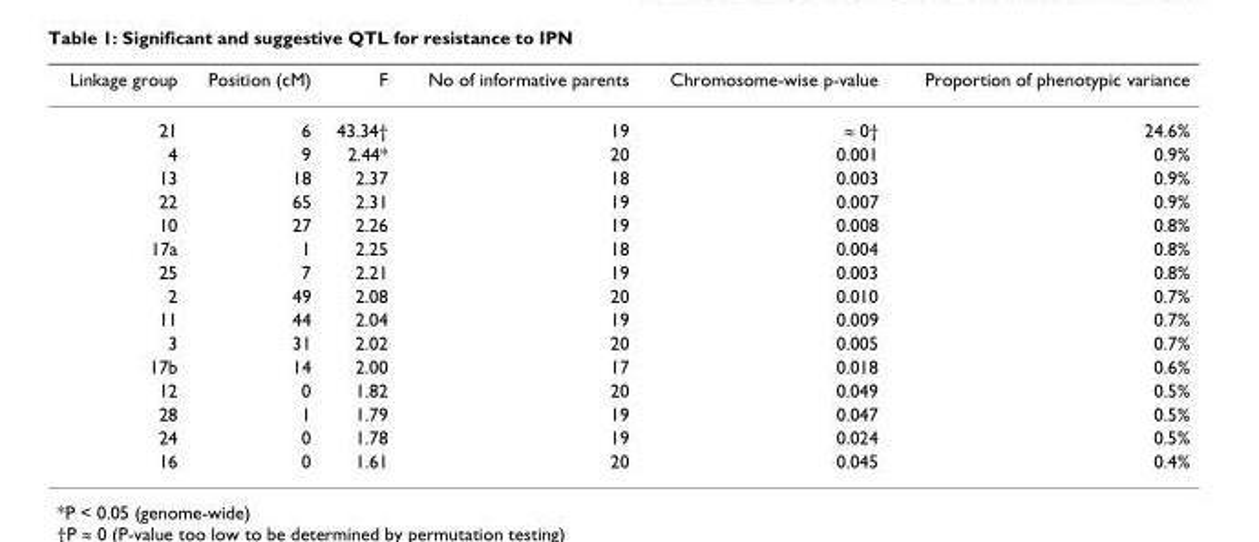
<table><thead><tr><td>Linkage group</td><td>Position (cM)</td><td>F</td><td>No of informative parents</td><td>Chromosome-wise p-value</td><td>Proportion of phenotypic variance</td></tr></thead><tbody><tr><td>21</td><td>6</td><td>43.34†</td><td>19</td><td>≈ 0†</td><td>24.6%</td></tr><tr><td>4</td><td>9</td><td>2.44*</td><td>20</td><td>0.001</td><td>0.9%</td></tr><tr><td>13</td><td>18</td><td>2.37</td><td>18</td><td>0.003</td><td>0.9%</td></tr><tr><td>22</td><td>65</td><td>2.31</td><td>19</td><td>0.007</td><td>0.9%</td></tr><tr><td>10</td><td>27</td><td>2.26</td><td>19</td><td>0.008</td><td>0.8%</td></tr><tr><td>17a</td><td>1</td><td>2.25</td><td>18</td><td>0.004</td><td>0.8%</td></tr><tr><td>25</td><td>7</td><td>2.21</td><td>19</td><td>0.003</td><td>0.8%</td></tr><tr><td>2</td><td>49</td><td>2.08</td><td>20</td><td>0.010</td><td>0.7%</td></tr><tr><td>11</td><td>44</td><td>2.04</td><td>19</td><td>0.009</td><td>0.7%</td></tr><tr><td>3</td><td>31</td><td>2.02</td><td>20</td><td>0.005</td><td>0.7%</td></tr><tr><td>17b</td><td>14</td><td>2.00</td><td>17</td><td>0.018</td><td>0.6%</td></tr><tr><td>12</td><td>0</td><td>1.82</td><td>20</td><td>0.049</td><td>0.5%</td></tr><tr><td>28</td><td>1</td><td>1.79</td><td>19</td><td>0.047</td><td>0.5%</td></tr><tr><td>24</td><td>0</td><td>1.78</td><td>19</td><td>0.024</td><td>0.5%</td></tr><tr><td>16</td><td>0</td><td>1.61</td><td>20</td><td>0.045</td><td>0.4%</td></tr></tbody></table>